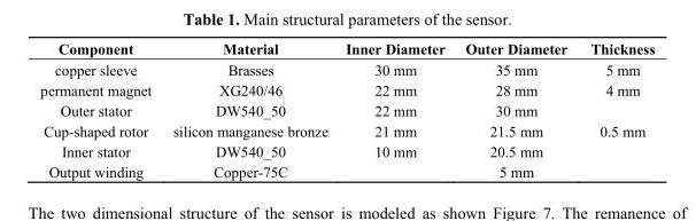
<table><thead><tr><td>Component</td><td>Material</td><td>Inner Diameter</td><td>Outer Diameter</td><td>Thickness</td></tr></thead><tbody><tr><td>copper sleeve</td><td>Brasses</td><td>30 mm</td><td>35 mm</td><td>5 mm</td></tr><tr><td>permanent magnet</td><td>XG240/46</td><td>22 mm</td><td>28 mm</td><td>4 mm</td></tr><tr><td>Outer stator</td><td>DW540_50</td><td>22 mm</td><td>30 mm</td><td></td></tr><tr><td>Cup-shaped rotor</td><td>silicon manganese bronze</td><td>21 mm</td><td>21.5 mm</td><td>0.5 mm</td></tr><tr><td>Inner stator</td><td>DW540_50</td><td>10 mm</td><td>20.5 mm</td><td></td></tr><tr><td>Output winding</td><td>Copper-75C</td><td></td><td>5 mm</td><td></td></tr></tbody></table>